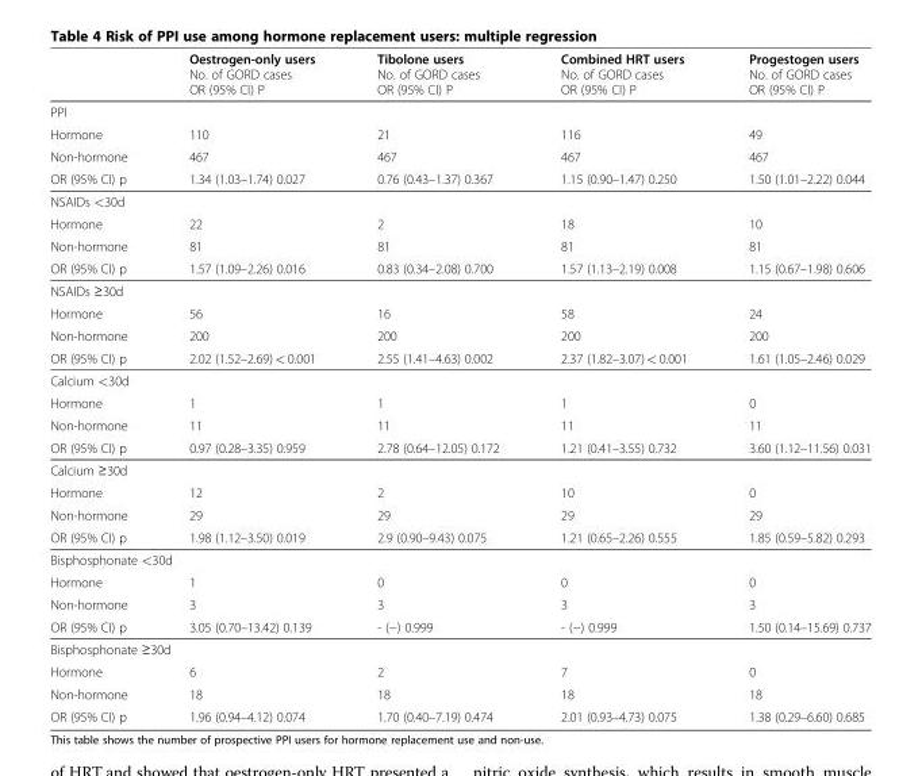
<table><thead><tr><td></td><td>Oestrogen-only users No. of GORD cases OR (95% CI) P</td><td>Tibolone users No. of GORD cases OR (95% CI) P</td><td>Combined HRT users No. of GORD cases OR (95% CI) P</td><td>Progestogen users No. of GORD cases OR (95% CI) P</td></tr></thead><tbody><tr><td colspan="5">PPI</td></tr><tr><td>Hormone</td><td>110</td><td>21</td><td>116</td><td>49</td></tr><tr><td>Non-hormone</td><td>467</td><td>467</td><td>467</td><td>467</td></tr><tr><td>OR (95% CI) p</td><td>1.34 (1.03–1.74) 0.027</td><td>0.76 (0.43–1.37) 0.367</td><td>1.15 (0.90–1.47) 0.250</td><td>1.50 (1.01–2.22) 0.044</td></tr><tr><td colspan="5">NSAIDs &lt;30d</td></tr><tr><td>Hormone</td><td>22</td><td>2</td><td>18</td><td>10</td></tr><tr><td>Non-hormone</td><td>81</td><td>81</td><td>81</td><td>81</td></tr><tr><td>OR (95% CI) p</td><td>1.57 (1.09–2.26) 0.016</td><td>0.83 (0.34–2.08) 0.700</td><td>1.57 (1.13–2.19) 0.008</td><td>1.15 (0.67–1.98) 0.606</td></tr><tr><td colspan="5">NSAIDs ≥30d</td></tr><tr><td>Hormone</td><td>56</td><td>16</td><td>58</td><td>24</td></tr><tr><td>Non-hormone</td><td>200</td><td>200</td><td>200</td><td>200</td></tr><tr><td>OR (95% CI) p</td><td>2.02 (1.52–2.69) &lt; 0.001</td><td>2.55 (1.41–4.63) 0.002</td><td>2.37 (1.82–3.07) &lt; 0.001</td><td>1.61 (1.05–2.46) 0.029</td></tr><tr><td colspan="5">Calcium &lt;30d</td></tr><tr><td>Hormone</td><td>1</td><td>1</td><td>1</td><td>0</td></tr><tr><td>Non-hormone</td><td>11</td><td>11</td><td>11</td><td>11</td></tr><tr><td>OR (95% CI) p</td><td>0.97 (0.28–3.35) 0.959</td><td>2.78 (0.64–12.05) 0.172</td><td>1.21 (0.41–3.55) 0.732</td><td>3.60 (1.12–11.56) 0.031</td></tr><tr><td colspan="5">Calcium ≥30d</td></tr><tr><td>Hormone</td><td>12</td><td>2</td><td>10</td><td>0</td></tr><tr><td>Non-hormone</td><td>29</td><td>29</td><td>29</td><td>29</td></tr><tr><td>OR (95% CI) p</td><td>1.98 (1.12–3.50) 0.019</td><td>2.9 (0.90–9.43) 0.075</td><td>1.21 (0.65–2.26) 0.555</td><td>1.85 (0.59–5.82) 0.293</td></tr><tr><td colspan="5">Bisphosphonate &lt;30d</td></tr><tr><td>Hormone</td><td>1</td><td>0</td><td>0</td><td>0</td></tr><tr><td>Non-hormone</td><td>3</td><td>3</td><td>3</td><td>3</td></tr><tr><td>OR (95% CI) p</td><td>3.05 (0.70–13.42) 0.139</td><td>- (−) 0.999</td><td>- (−) 0.999</td><td>1.50 (0.14–15.69) 0.737</td></tr><tr><td colspan="5">Bisphosphonate ≥30d</td></tr><tr><td>Hormone</td><td>6</td><td>2</td><td>7</td><td>0</td></tr><tr><td>Non-hormone</td><td>18</td><td>18</td><td>18</td><td>18</td></tr><tr><td>OR (95% CI) p</td><td>1.96 (0.94–4.12) 0.074</td><td>1.70 (0.40–7.19) 0.474</td><td>2.01 (0.93–4.73) 0.075</td><td>1.38 (0.29–6.60) 0.685</td></tr></tbody></table>